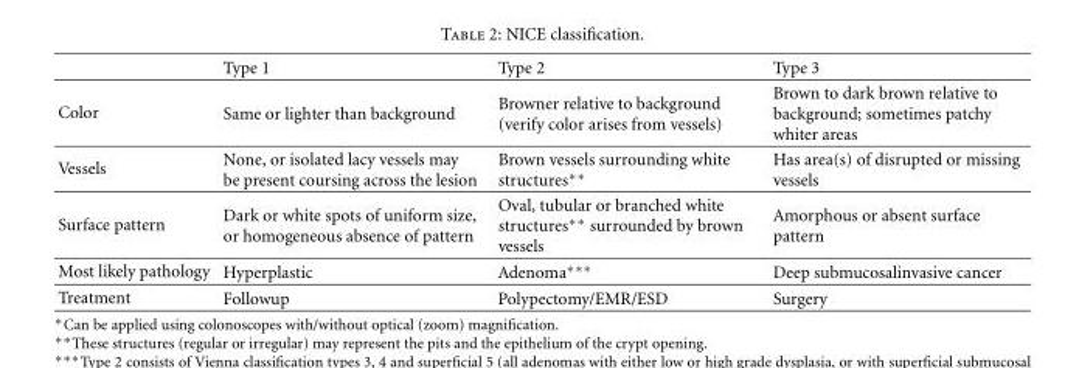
<table><thead><tr><td></td><td>Type 1</td><td>Type 2</td><td>Type 3</td></tr></thead><tbody><tr><td>Color</td><td>Same or lighter than background</td><td>Browner relative to background (verify color arises from vessels)</td><td>Brown to dark brown relative to background; sometimes patchy whiter areas</td></tr><tr><td>Vessels</td><td>None, or isolated lacy vessels may be present coursing across the lesion</td><td>Brown vessels surrounding white structures∗∗</td><td>Has area(s) of disrupted or missing vessels</td></tr><tr><td>Surface pattern</td><td>Dark or white spots of uniform size, or homogeneous absence of pattern</td><td>Oval, tubular or branched white structures∗∗ surrounded by brown vessels</td><td>Amorphous or absent surface pattern</td></tr><tr><td>Most likely pathology</td><td>Hyperplastic</td><td>Adenoma∗∗∗</td><td>Deep submucosalinvasive cancer</td></tr><tr><td>Treatment</td><td>Followup</td><td>Polypectomy/EMR/ESD</td><td>Surgery</td></tr></tbody></table>